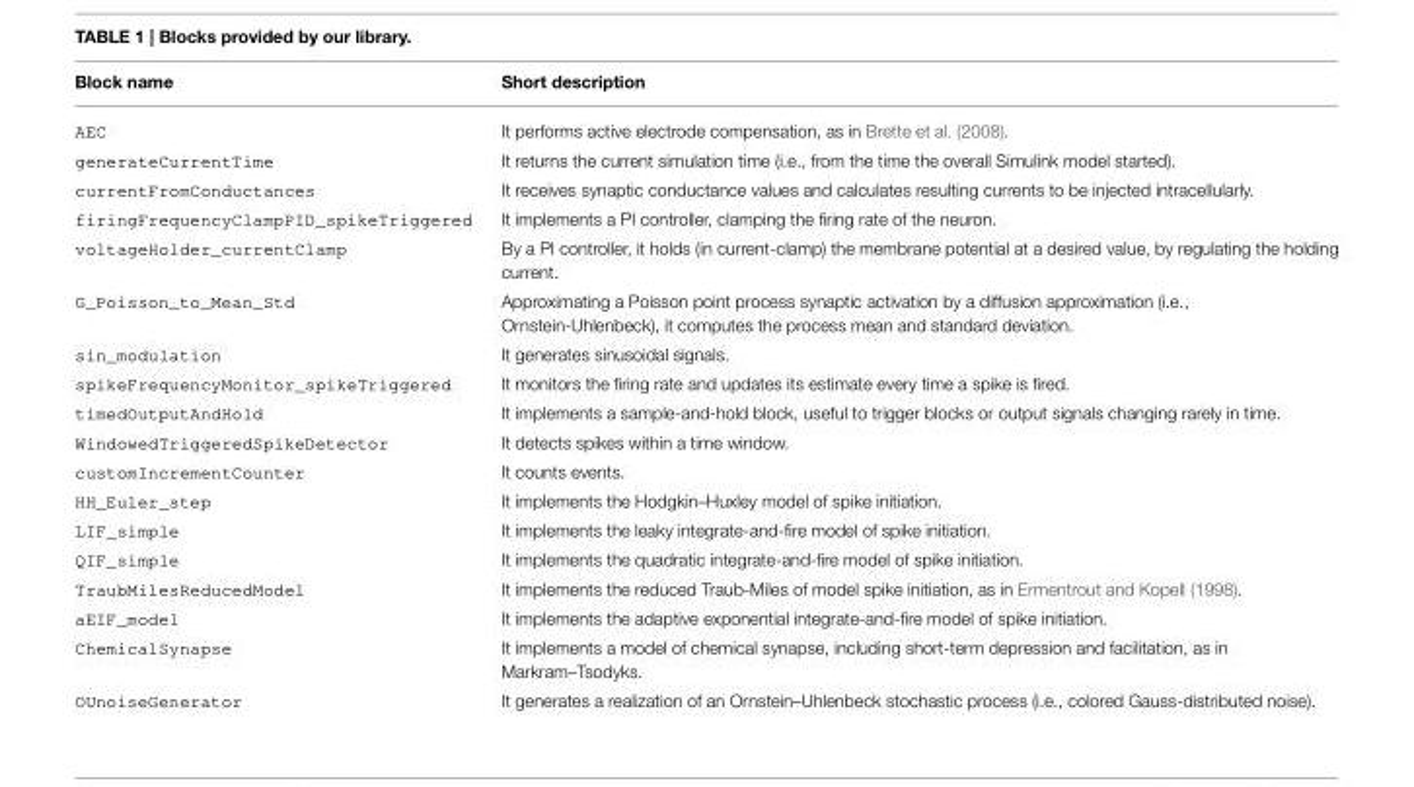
<table><thead><tr><td>Block name</td><td>Short description</td></tr></thead><tbody><tr><td>AEC</td><td>It performs active electrode compensation, as in Brette et al. (2008).</td></tr><tr><td>generateCurrentTime</td><td>It returns the current simulation time (i.e., from the time the overall Simulink model started).</td></tr><tr><td>currentFromConductances</td><td>It receives synaptic conductance values and calculates resulting currents to be injected intracellularly.</td></tr><tr><td>firingFrequencyClampPID_spikeTriggered</td><td>It implements a PI controller, clamping the firing rate of the neuron.</td></tr><tr><td>voltageHolder_currentClamp</td><td>By a PI controller, it holds (in current-clamp) the membrane potential at a desired value, by regulating the holding current.</td></tr><tr><td>G_Poisson_to_Mean_Std</td><td>Approximating a Poisson point process synaptic activation by a diffusion approximation (i.e., Ornstein-Uhlenbeck), it computes the process mean and standard deviation.</td></tr><tr><td>sin_modulation</td><td>It generates sinusoidal signals.</td></tr><tr><td>spikeFrequencyMonitor_spikeTriggered</td><td>It monitors the firing rate and updates its estimate every time a spike is fired.</td></tr><tr><td>timedOutputAndHold</td><td>It implements a sample-and-hold block, useful to trigger blocks or output signals changing rarely in time.</td></tr><tr><td>WindowedTriggeredSpikeDetector</td><td>It detects spikes within a time window.</td></tr><tr><td>customIncrementCounter</td><td>It counts events.</td></tr><tr><td>HH_Euler_step</td><td>It implements the Hodgkin–Huxley model of spike initiation.</td></tr><tr><td>LIF_simple</td><td>It implements the leaky integrate-and-fire model of spike initiation.</td></tr><tr><td>QIF_simple</td><td>It implements the quadratic integrate-and-fire model of spike initiation.</td></tr><tr><td>TraubMilesReducedModel</td><td>It implements the reduced Traub-Miles of model spike initiation, as in Ermentrout and Kopell (1998).</td></tr><tr><td>aEIF_model</td><td>It implements the adaptive exponential integrate-and-fire model of spike initiation.</td></tr><tr><td>ChemicalSynapse</td><td>It implements a model of chemical synapse, including short-term depression and facilitation, as in Markram–Tsodyks.</td></tr><tr><td>OUnoiseGenerator</td><td>It generates a realization of an Ornstein–Uhlenbeck stochastic process (i.e., colored Gauss-distributed noise).</td></tr></tbody></table>